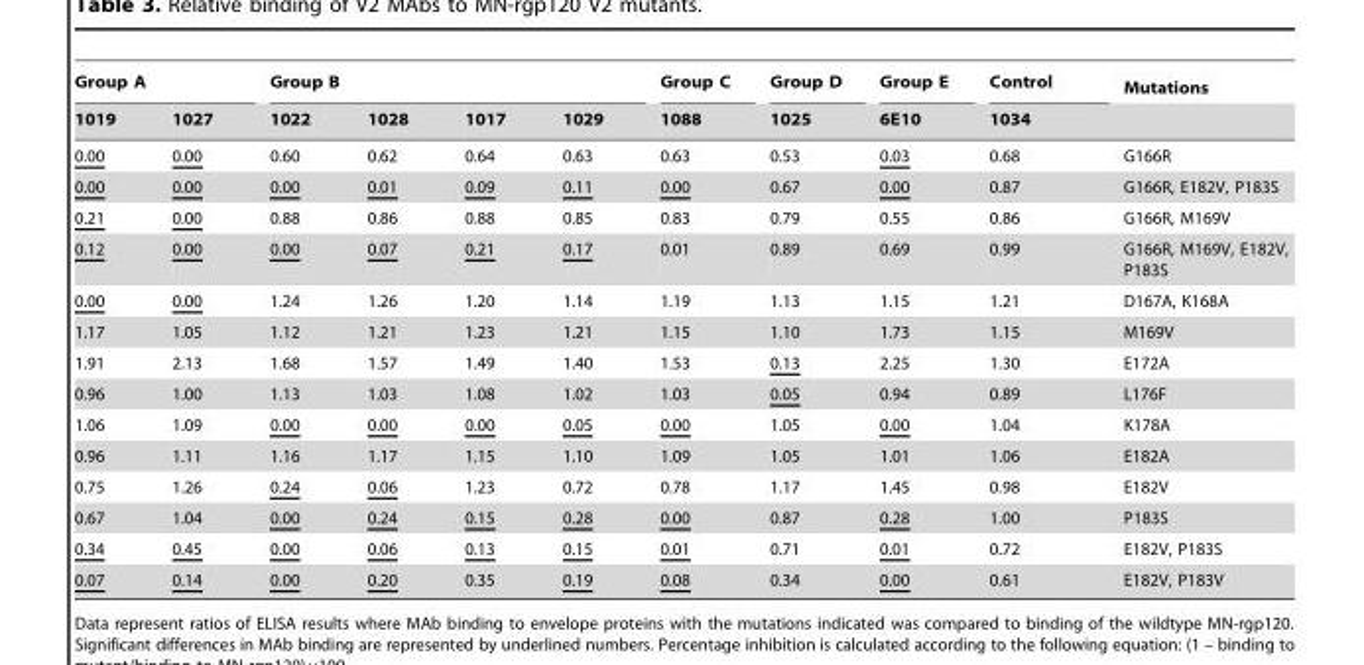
<table><thead><tr><td colspan="2">Group A</td><td colspan="4">Group B</td><td rowspan="2">Group C 1088</td><td rowspan="2">Group D 1025</td><td rowspan="2">Group E 6E10</td><td rowspan="2">Control 1034</td><td rowspan="2">Mutations</td></tr><tr><td>1019</td><td>1027</td><td>1022</td><td>1028</td><td>1017</td><td>1029</td></tr></thead><tbody><tr><td>0.00</td><td>0.00</td><td>0.60</td><td>0.62</td><td>0.64</td><td>0.63</td><td>0.63</td><td>0.53</td><td>0.03</td><td>0.68</td><td>G166R</td></tr><tr><td>0.00</td><td>0.00</td><td>0.00</td><td>0.01</td><td>0.09</td><td>0.11</td><td>0.00</td><td>0.67</td><td>0.00</td><td>0.87</td><td>G166R, E182V, P183S</td></tr><tr><td>0.21</td><td>0.00</td><td>0.88</td><td>0.86</td><td>0.88</td><td>0.85</td><td>0.83</td><td>0.79</td><td>0.55</td><td>0.86</td><td>G166R, M169V</td></tr><tr><td>0.12</td><td>0.00</td><td>0.00</td><td>0.07</td><td>0.21</td><td>0.17</td><td>0.01</td><td>0.89</td><td>0.69</td><td>0.99</td><td>G166R, M169V, E182V, P183S</td></tr><tr><td>0.00</td><td>0.00</td><td>1.24</td><td>1.26</td><td>1.20</td><td>1.14</td><td>1.19</td><td>1.13</td><td>1.15</td><td>1.21</td><td>D167A, K168A</td></tr><tr><td>1.17</td><td>1.05</td><td>1.12</td><td>1.21</td><td>1.23</td><td>1.21</td><td>1.15</td><td>1.10</td><td>1.73</td><td>1.15</td><td>M169V</td></tr><tr><td>1.91</td><td>2.13</td><td>1.68</td><td>1.57</td><td>1.49</td><td>1.40</td><td>1.53</td><td>0.13</td><td>2.25</td><td>1.30</td><td>E172A</td></tr><tr><td>0.96</td><td>1.00</td><td>1.13</td><td>1.03</td><td>1.08</td><td>1.02</td><td>1.03</td><td>0.05</td><td>0.94</td><td>0.89</td><td>L176F</td></tr><tr><td>1.06</td><td>1.09</td><td>0.00</td><td>0.00</td><td>0.00</td><td>0.05</td><td>0.00</td><td>1.05</td><td>0.00</td><td>1.04</td><td>K178A</td></tr><tr><td>0.96</td><td>1.11</td><td>1.16</td><td>1.17</td><td>1.15</td><td>1.10</td><td>1.09</td><td>1.05</td><td>1.01</td><td>1.06</td><td>E182A</td></tr><tr><td>0.75</td><td>1.26</td><td>0.24</td><td>0.06</td><td>1.23</td><td>0.72</td><td>0.78</td><td>1.17</td><td>1.45</td><td>0.98</td><td>E182V</td></tr><tr><td>0.67</td><td>1.04</td><td>0.00</td><td>0.24</td><td>0.15</td><td>0.28</td><td>0.00</td><td>0.87</td><td>0.28</td><td>1.00</td><td>P183S</td></tr><tr><td>0.34</td><td>0.45</td><td>0.00</td><td>0.06</td><td>0.13</td><td>0.15</td><td>0.01</td><td>0.71</td><td>0.01</td><td>0.72</td><td>E182V, P183S</td></tr><tr><td>0.07</td><td>0.14</td><td>0.00</td><td>0.20</td><td>0.35</td><td>0.19</td><td>0.08</td><td>0.34</td><td>0.00</td><td>0.61</td><td>E182V, P183V</td></tr></tbody></table>